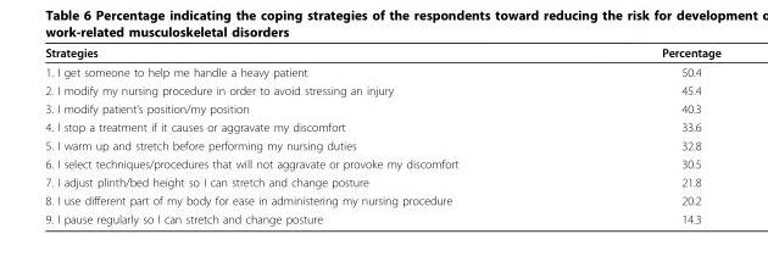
<table><thead><tr><td>Strategies</td><td>Percentage</td></tr></thead><tbody><tr><td>1. I get someone to help me handle a heavy patient</td><td>50.4</td></tr><tr><td>2. I modify my nursing procedure in order to avoid stressing an injury</td><td>45.4</td></tr><tr><td>3. I modify patient’s position/my position</td><td>40.3</td></tr><tr><td>4. I stop a treatment if it causes or aggravate my discomfort</td><td>33.6</td></tr><tr><td>5. I warm up and stretch before performing my nursing duties</td><td>32.8</td></tr><tr><td>6. I select techniques/procedures that will not aggravate or provoke my discomfort</td><td>30.5</td></tr><tr><td>7. I adjust plinth/bed height so I can stretch and change posture</td><td>21.8</td></tr><tr><td>8. I use different part of my body for ease in administering my nursing procedure</td><td>20.2</td></tr><tr><td>9. I pause regularly so I can stretch and change posture</td><td>14.3</td></tr></tbody></table>